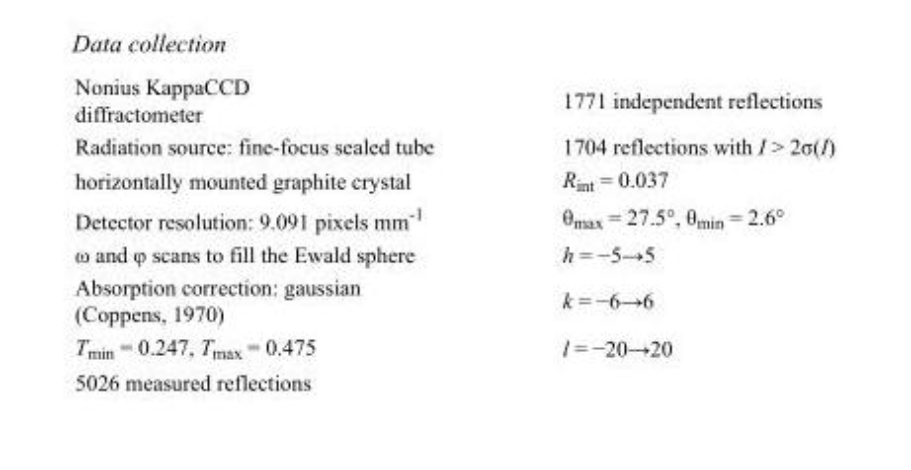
<table><tbody><tr><td>Nonius KappaCCD diffractometer</td><td>1771 independent reflections</td></tr><tr><td>Radiation source: fine-focus sealed tube</td><td>1704 reflections with I &gt; 2σ(I)</td></tr><tr><td>horizontally mounted graphite crystal</td><td>R<sub>int</sub> = 0.037</td></tr><tr><td>Detector resolution: 9.091 pixels mm<sup>-1</sup></td><td>θ<sub>max</sub> = 27.5°, θ<sub>min</sub> = 2.6°</td></tr><tr><td>ω and φ scans to fill the Ewald sphere</td><td>h = −5→5</td></tr><tr><td>Absorption correction: gaussian (Coppens, 1970)</td><td>k = −6→6</td></tr><tr><td>T<sub>min</sub> = 0.247, T<sub>max</sub> = 0.475</td><td>l = −20→20</td></tr><tr><td>5026 measured reflections</td><td></td></tr></tbody></table>